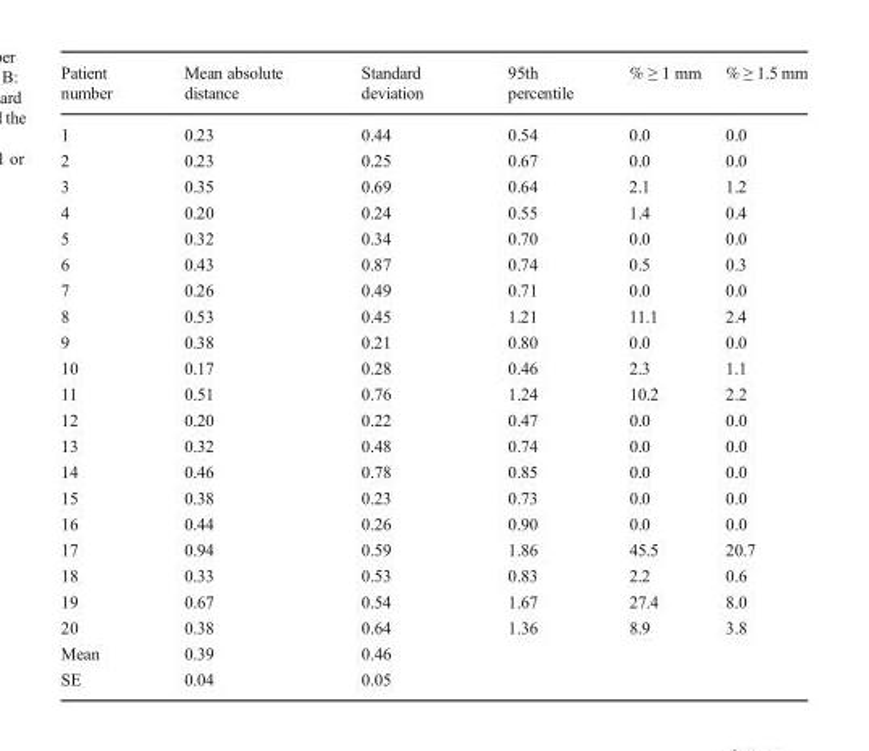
<table><thead><tr><td>Patient number</td><td>Mean absolute distance</td><td>Standard deviation</td><td>95th percentile</td><td>% ≥ 1 mm</td><td>% ≥ 1.5 mm</td></tr></thead><tbody><tr><td>1</td><td>0.23</td><td>0.44</td><td>0.54</td><td>0.0</td><td>0.0</td></tr><tr><td>2</td><td>0.23</td><td>0.25</td><td>0.67</td><td>0.0</td><td>0.0</td></tr><tr><td>3</td><td>0.35</td><td>0.69</td><td>0.64</td><td>2.1</td><td>1.2</td></tr><tr><td>4</td><td>0.20</td><td>0.24</td><td>0.55</td><td>1.4</td><td>0.4</td></tr><tr><td>5</td><td>0.32</td><td>0.34</td><td>0.70</td><td>0.0</td><td>0.0</td></tr><tr><td>6</td><td>0.43</td><td>0.87</td><td>0.74</td><td>0.5</td><td>0.3</td></tr><tr><td>7</td><td>0.26</td><td>0.49</td><td>0.71</td><td>0.0</td><td>0.0</td></tr><tr><td>8</td><td>0.53</td><td>0.45</td><td>1.21</td><td>11.1</td><td>2.4</td></tr><tr><td>9</td><td>0.38</td><td>0.21</td><td>0.80</td><td>0.0</td><td>0.0</td></tr><tr><td>10</td><td>0.17</td><td>0.28</td><td>0.46</td><td>2.3</td><td>1.1</td></tr><tr><td>11</td><td>0.51</td><td>0.76</td><td>1.24</td><td>10.2</td><td>2.2</td></tr><tr><td>12</td><td>0.20</td><td>0.22</td><td>0.47</td><td>0.0</td><td>0.0</td></tr><tr><td>13</td><td>0.32</td><td>0.48</td><td>0.74</td><td>0.0</td><td>0.0</td></tr><tr><td>14</td><td>0.46</td><td>0.78</td><td>0.85</td><td>0.0</td><td>0.0</td></tr><tr><td>15</td><td>0.38</td><td>0.23</td><td>0.73</td><td>0.0</td><td>0.0</td></tr><tr><td>16</td><td>0.44</td><td>0.26</td><td>0.90</td><td>0.0</td><td>0.0</td></tr><tr><td>17</td><td>0.94</td><td>0.59</td><td>1.86</td><td>45.5</td><td>20.7</td></tr><tr><td>18</td><td>0.33</td><td>0.53</td><td>0.83</td><td>2.2</td><td>0.6</td></tr><tr><td>19</td><td>0.67</td><td>0.54</td><td>1.67</td><td>27.4</td><td>8.0</td></tr><tr><td>20</td><td>0.38</td><td>0.64</td><td>1.36</td><td>8.9</td><td>3.8</td></tr><tr><td>Mean</td><td>0.39</td><td>0.46</td><td></td><td></td><td></td></tr><tr><td>SE</td><td>0.04</td><td>0.05</td><td></td><td></td><td></td></tr></tbody></table>